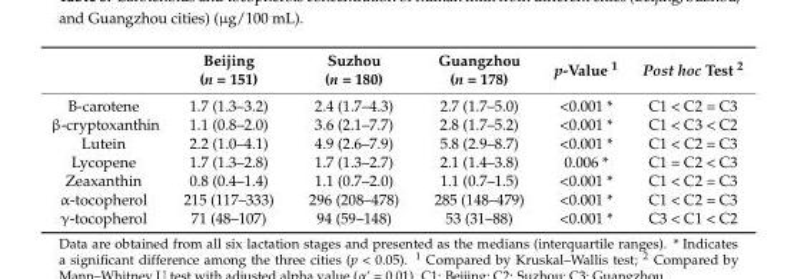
<table><thead><tr><td></td><td>Beijing (n = 151)</td><td>Suzhou (n = 180)</td><td>Guangzhou (n = 178)</td><td>p-Value <sup>1</sup></td><td>Post hoc Test <sup>2</sup></td></tr></thead><tbody><tr><td>B-carotene</td><td>1.7 (1.3–3.2)</td><td>2.4 (1.7–4.3)</td><td>2.7 (1.7–5.0)</td><td>&lt;0.001 *</td><td>C1 &lt; C2 = C3</td></tr><tr><td>β-cryptoxanthin</td><td>1.1 (0.8–2.0)</td><td>3.6 (2.1–7.7)</td><td>2.8 (1.7–5.2)</td><td>&lt;0.001 *</td><td>C1 &lt; C3 &lt; C2</td></tr><tr><td>Lutein</td><td>2.2 (1.0–4.1)</td><td>4.9 (2.6–7.9)</td><td>5.8 (2.9–8.7)</td><td>&lt;0.001 *</td><td>C1 &lt; C2 = C3</td></tr><tr><td>Lycopene</td><td>1.7 (1.3–2.8)</td><td>1.7 (1.3–2.7)</td><td>2.1 (1.4–3.8)</td><td>0.006 *</td><td>C1 = C2 &lt; C3</td></tr><tr><td>Zeaxanthin</td><td>0.8 (0.4–1.4)</td><td>1.1 (0.7–2.0)</td><td>1.1 (0.7–1.5)</td><td>&lt;0.001 *</td><td>C1 &lt; C2 = C3</td></tr><tr><td>α-tocopherol</td><td>215 (117–333)</td><td>296 (208–478)</td><td>285 (148–479)</td><td>&lt;0.001 *</td><td>C1 &lt; C2 = C3</td></tr><tr><td>γ-tocopherol</td><td>71 (48–107)</td><td>94 (59–148)</td><td>53 (31–88)</td><td>&lt;0.001 *</td><td>C3 &lt; C1 &lt; C2</td></tr></tbody></table>